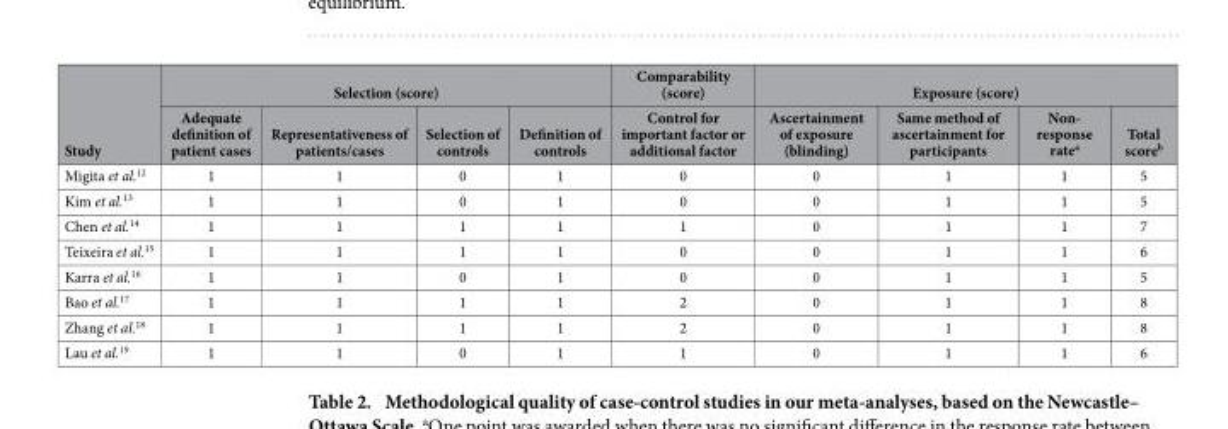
<table><thead><tr><td rowspan="2">Study</td><td colspan="4">Selection (score)</td><td rowspan="2">Comparability (score) Control for important factor or additional factor</td><td colspan="4">Exposure (score)</td></tr><tr><td>Adequate definition of patient cases</td><td>Representativeness of patients/cases</td><td>Selection of controls</td><td>Definition of controls</td><td>Ascertainment of exposure (blinding)</td><td>Same method of ascertainment for participants</td><td>Non- response rate<sup>a</sup></td><td>Total score<sup>b</sup></td></tr></thead><tbody><tr><td>Migita et al.<sup>12</sup></td><td>1</td><td>1</td><td>0</td><td>1</td><td>0</td><td>0</td><td>1</td><td>1</td><td>5</td></tr><tr><td>Kim et al.<sup>13</sup></td><td>1</td><td>1</td><td>0</td><td>1</td><td>0</td><td>0</td><td>1</td><td>1</td><td>5</td></tr><tr><td>Chen et al.<sup>14</sup></td><td>1</td><td>1</td><td>1</td><td>1</td><td>1</td><td>0</td><td>1</td><td>1</td><td>7</td></tr><tr><td>Teixeira et al.<sup>15</sup></td><td>1</td><td>1</td><td>1</td><td>1</td><td>0</td><td>0</td><td>1</td><td>1</td><td>6</td></tr><tr><td>Karra et al.<sup>16</sup></td><td>1</td><td>1</td><td>0</td><td>1</td><td>0</td><td>0</td><td>1</td><td>1</td><td>5</td></tr><tr><td>Bao et al.<sup>17</sup></td><td>1</td><td>1</td><td>1</td><td>1</td><td>2</td><td>0</td><td>1</td><td>1</td><td>8</td></tr><tr><td>Zhang et al.<sup>18</sup></td><td>1</td><td>1</td><td>1</td><td>1</td><td>2</td><td>0</td><td>1</td><td>1</td><td>8</td></tr><tr><td>Lau et al.<sup>19</sup></td><td>1</td><td>1</td><td>0</td><td>1</td><td>1</td><td>0</td><td>1</td><td>1</td><td>6</td></tr></tbody></table>